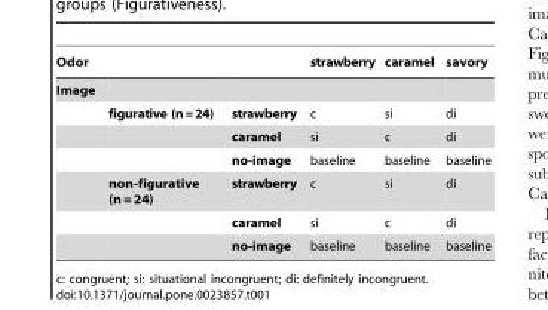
<table><thead><tr><td>Odor</td><td></td><td></td><td>strawberry</td><td>caramel</td><td>savory</td></tr></thead><tbody><tr><td colspan="6">Image</td></tr><tr><td></td><td>figurative (n=24)</td><td>strawberry</td><td>c</td><td>si</td><td>di</td></tr><tr><td></td><td></td><td>caramel</td><td>si</td><td>c</td><td>di</td></tr><tr><td></td><td></td><td>no-image</td><td>baseline</td><td>baseline</td><td>baseline</td></tr><tr><td></td><td>non-figurative (n = 24)</td><td>strawberry</td><td>c</td><td>si</td><td>di</td></tr><tr><td></td><td></td><td>caramel</td><td>si</td><td>c</td><td>di</td></tr><tr><td></td><td></td><td>no-image</td><td>baseline</td><td>baseline</td><td>baseline</td></tr></tbody></table>